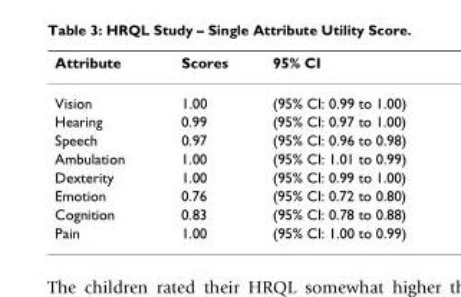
<table><thead><tr><td>Attribute</td><td>Scores</td><td>95% CI</td></tr></thead><tbody><tr><td>Vision</td><td>1.00</td><td>(95% CI: 0.99 to 1.00)</td></tr><tr><td>Hearing</td><td>0.99</td><td>(95% CI: 0.97 to 1.00)</td></tr><tr><td>Speech</td><td>0.97</td><td>(95% CI: 0.96 to 0.98)</td></tr><tr><td>Ambulation</td><td>1.00</td><td>(95% CI: 1.01 to 0.99)</td></tr><tr><td>Dexterity</td><td>1.00</td><td>(95% CI: 0.99 to 1.00)</td></tr><tr><td>Emotion</td><td>0.76</td><td>(95% CI: 0.72 to 0.80)</td></tr><tr><td>Cognition</td><td>0.83</td><td>(95% CI: 0.78 to 0.88)</td></tr><tr><td>Pain</td><td>1.00</td><td>(95% CI: 1.00 to 0.99)</td></tr></tbody></table>